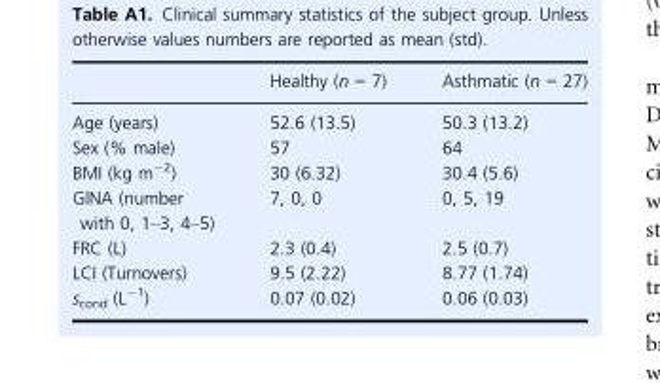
<table><thead><tr><td></td><td>Healthy (n = 7)</td><td>Asthmatic (n = 27)</td></tr></thead><tbody><tr><td>Age (years)</td><td>52.6 (13.5)</td><td>50.3 (13.2)</td></tr><tr><td>Sex (% male)</td><td>57</td><td>64</td></tr><tr><td>BMI (kg m<sup>−2</sup>)</td><td>30 (6.32)</td><td>30.4 (5.6)</td></tr><tr><td>GINA (number with 0, 1–3, 4–5)</td><td>7, 0, 0</td><td>0, 5, 19</td></tr><tr><td>FRC (L)</td><td>2.3 (0.4)</td><td>2.5 (0.7)</td></tr><tr><td>LCI (Turnovers)</td><td>9.5 (2.22)</td><td>8.77 (1.74)</td></tr><tr><td>s<sub>cond</sub> (L<sup>−1</sup>)</td><td>0.07 (0.02)</td><td>0.06 (0.03)</td></tr></tbody></table>